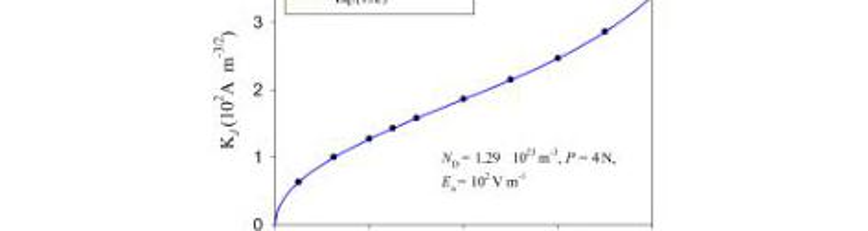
<table><thead><tr><td rowspan="2">Intensity Factors Stress intensity factor</td><td colspan="5">Fitting Coefficients, e<sub>j</sub> (j = 1, 2, 3, 4, 5)</td></tr><tr><td>3.055</td><td>−7.141</td><td>33.479</td><td>−61.360</td><td>52.909</td></tr></thead><tbody><tr><td>Electric displacement intensity factor</td><td>1.921</td><td>−0.426</td><td>2.157</td><td>−3.438</td><td>3.206</td></tr><tr><td>Electric current intensity factor</td><td>1.800</td><td>−0.256</td><td>2.350</td><td>−4.101</td><td>4.270</td></tr></tbody></table>